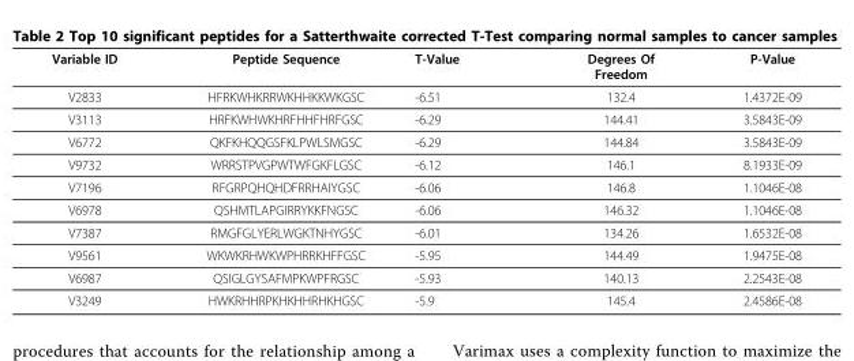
<table><thead><tr><td>Variable ID</td><td>Peptide Sequence</td><td>T-Value</td><td>Degrees Of Freedom</td><td>P-Value</td></tr></thead><tbody><tr><td>V2833</td><td>HFRKWHKRRWKHHKKWKGSC</td><td>-6.51</td><td>132.4</td><td>1.4372E-09</td></tr><tr><td>V3113</td><td>HRFKWHWKHRFHHFHRFGSC</td><td>-6.29</td><td>144.41</td><td>3.5843E-09</td></tr><tr><td>V6772</td><td>QKFKHQQGSFKLPWLSMGSC</td><td>-6.29</td><td>144.84</td><td>3.5843E-09</td></tr><tr><td>V9732</td><td>WRRSTPVGPWTWFGKFLGSC</td><td>-6.12</td><td>146.1</td><td>8.1933E-09</td></tr><tr><td>V7196</td><td>RFGRPQHQHDFRRHAIYGSC</td><td>-6.06</td><td>146.8</td><td>1.1046E-08</td></tr><tr><td>V6978</td><td>QSHMTLAPGIRRYKKFNGSC</td><td>-6.06</td><td>146.32</td><td>1.1046E-08</td></tr><tr><td>V7387</td><td>RMGFGLYERLWGKTNHYGSC</td><td>-6.01</td><td>134.26</td><td>1.6532E-08</td></tr><tr><td>V9561</td><td>WKWKRHWKWPHRRKHFFGSC</td><td>-5.95</td><td>144.49</td><td>1.9475E-08</td></tr><tr><td>V6987</td><td>QSIGLGYSAFMPKWPFRGSC</td><td>-5.93</td><td>140.13</td><td>2.2543E-08</td></tr><tr><td>V3249</td><td>HWKRHHRPKHKHHRHKHGSC</td><td>-5.9</td><td>145.4</td><td>2.4586E-08</td></tr></tbody></table>